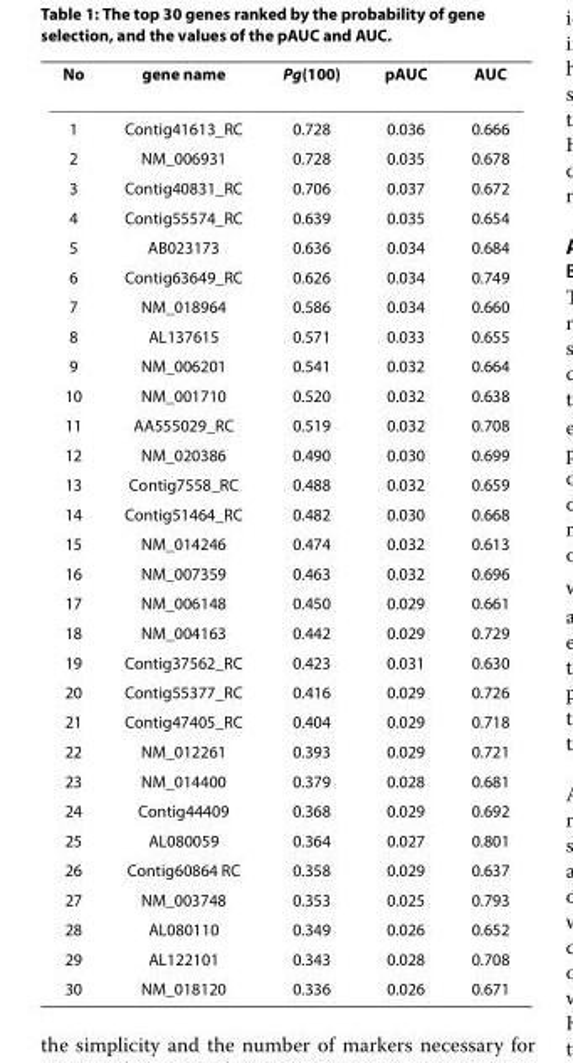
<table><thead><tr><td>No</td><td>gene name</td><td>P<sub>g</sub>(100)</td><td>pAUC</td><td>AUC</td></tr></thead><tbody><tr><td>1</td><td>Contig41613_RC</td><td>0.728</td><td>0.036</td><td>0.666</td></tr><tr><td>2</td><td>NM_006931</td><td>0.728</td><td>0.035</td><td>0.678</td></tr><tr><td>3</td><td>Contig40831_RC</td><td>0.706</td><td>0.037</td><td>0.672</td></tr><tr><td>4</td><td>Contig55574_RC</td><td>0.639</td><td>0.035</td><td>0.654</td></tr><tr><td>5</td><td>AB023173</td><td>0.636</td><td>0.034</td><td>0.684</td></tr><tr><td>6</td><td>Contig63649_RC</td><td>0.626</td><td>0.034</td><td>0.749</td></tr><tr><td>7</td><td>NM_018964</td><td>0.586</td><td>0.034</td><td>0.660</td></tr><tr><td>8</td><td>AL137615</td><td>0.571</td><td>0.033</td><td>0.655</td></tr><tr><td>9</td><td>NM_006201</td><td>0.541</td><td>0.032</td><td>0.664</td></tr><tr><td>10</td><td>NM_001710</td><td>0.520</td><td>0.032</td><td>0.638</td></tr><tr><td>11</td><td>AA555029_RC</td><td>0.519</td><td>0.032</td><td>0.708</td></tr><tr><td>12</td><td>NM_020386</td><td>0.490</td><td>0.030</td><td>0.699</td></tr><tr><td>13</td><td>Contig7558_RC</td><td>0.488</td><td>0.032</td><td>0.659</td></tr><tr><td>14</td><td>Contig51464_RC</td><td>0.482</td><td>0.030</td><td>0.668</td></tr><tr><td>15</td><td>NM_014246</td><td>0.474</td><td>0.032</td><td>0.613</td></tr><tr><td>16</td><td>NM_007359</td><td>0.463</td><td>0.032</td><td>0.696</td></tr><tr><td>17</td><td>NM_006148</td><td>0.450</td><td>0.029</td><td>0.661</td></tr><tr><td>18</td><td>NM_004163</td><td>0.442</td><td>0.029</td><td>0.729</td></tr><tr><td>19</td><td>Contig37562_RC</td><td>0.423</td><td>0.031</td><td>0.630</td></tr><tr><td>20</td><td>Contig55377_RC</td><td>0.416</td><td>0.029</td><td>0.726</td></tr><tr><td>21</td><td>Contig47405_RC</td><td>0.404</td><td>0.029</td><td>0.718</td></tr><tr><td>22</td><td>NM_012261</td><td>0.393</td><td>0.029</td><td>0.721</td></tr><tr><td>23</td><td>NM_014400</td><td>0.379</td><td>0.028</td><td>0.681</td></tr><tr><td>24</td><td>Contig44409</td><td>0.368</td><td>0.029</td><td>0.692</td></tr><tr><td>25</td><td>AL080059</td><td>0.364</td><td>0.027</td><td>0.801</td></tr><tr><td>26</td><td>Contig60864 RC</td><td>0.358</td><td>0.029</td><td>0.637</td></tr><tr><td>27</td><td>NM_003748</td><td>0.353</td><td>0.025</td><td>0.793</td></tr><tr><td>28</td><td>AL080110</td><td>0.349</td><td>0.026</td><td>0.652</td></tr><tr><td>29</td><td>AL122101</td><td>0.343</td><td>0.028</td><td>0.708</td></tr><tr><td>30</td><td>NM_018120</td><td>0.336</td><td>0.026</td><td>0.671</td></tr></tbody></table>